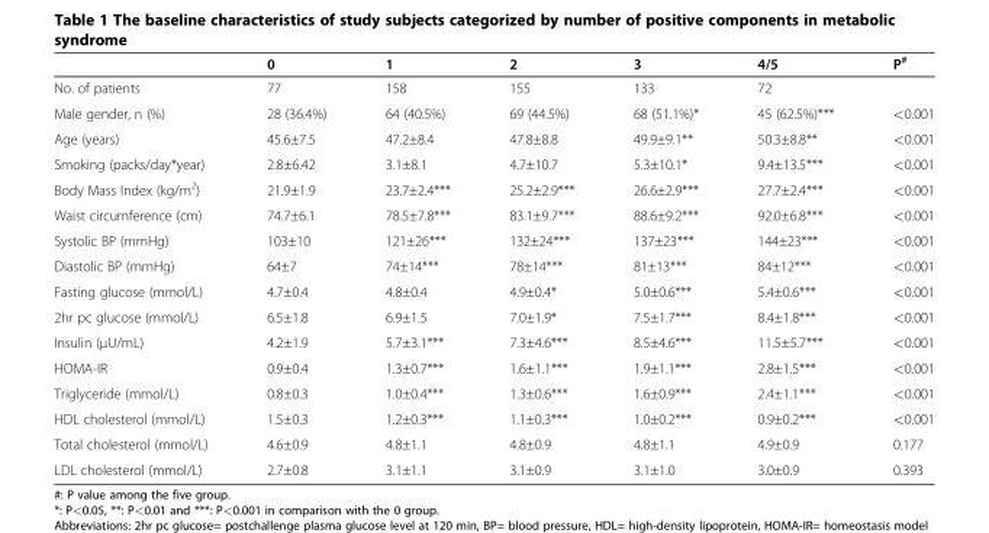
<table><thead><tr><td></td><td>0</td><td>1</td><td>2</td><td>3</td><td>4/5</td><td>P<sup>#</sup></td></tr></thead><tbody><tr><td>No. of patients</td><td>77</td><td>158</td><td>155</td><td>133</td><td>72</td><td></td></tr><tr><td>Male gender, n (%)</td><td>28 (36.4%)</td><td>64 (40.5%)</td><td>69 (44.5%)</td><td>68 (51.1%)*</td><td>45 (62.5%)***</td><td>&lt;0.001</td></tr><tr><td>Age (years)</td><td>45.6±7.5</td><td>47.2±8.4</td><td>47.8±8.8</td><td>49.9±9.1**</td><td>50.3±8.8**</td><td>&lt;0.001</td></tr><tr><td>Smoking (packs/day*year)</td><td>2.8±6.42</td><td>3.1±8.1</td><td>4.7±10.7</td><td>5.3±10.1*</td><td>9.4±13.5***</td><td>&lt;0.001</td></tr><tr><td>Body Mass Index (kg/m<sup>2</sup>)</td><td>21.9±1.9</td><td>23.7±2.4***</td><td>25.2±2.9***</td><td>26.6±2.9***</td><td>27.7±2.4***</td><td>&lt;0.001</td></tr><tr><td>Waist circumference (cm)</td><td>74.7±6.1</td><td>78.5±7.8***</td><td>83.1±9.7***</td><td>88.6±9.2***</td><td>92.0±6.8***</td><td>&lt;0.001</td></tr><tr><td>Systolic BP (mmHg)</td><td>103±10</td><td>121±26***</td><td>132±24***</td><td>137±23***</td><td>144±23***</td><td>&lt;0.001</td></tr><tr><td>Diastolic BP (mmHg)</td><td>64±7</td><td>74±14***</td><td>78±14***</td><td>81±13***</td><td>84±12***</td><td>&lt;0.001</td></tr><tr><td>Fasting glucose (mmol/L)</td><td>4.7±0.4</td><td>4.8±0.4</td><td>4.9±0.4*</td><td>5.0±0.6***</td><td>5.4±0.6***</td><td>&lt;0.001</td></tr><tr><td>2hr pc glucose (mmol/L)</td><td>6.5±1.8</td><td>6.9±1.5</td><td>7.0±1.9*</td><td>7.5±1.7***</td><td>8.4±1.8***</td><td>&lt;0.001</td></tr><tr><td>Insulin (μU/mL)</td><td>4.2±1.9</td><td>5.7±3.1***</td><td>7.3±4.6***</td><td>8.5±4.6***</td><td>11.5±5.7***</td><td>&lt;0.001</td></tr><tr><td>HOMA-IR</td><td>0.9±0.4</td><td>1.3±0.7***</td><td>1.6±1.1***</td><td>1.9±1.1***</td><td>2.8±1.5***</td><td>&lt;0.001</td></tr><tr><td>Triglyceride (mmol/L)</td><td>0.8±0.3</td><td>1.0±0.4***</td><td>1.3±0.6***</td><td>1.6±0.9***</td><td>2.4±1.1***</td><td>&lt;0.001</td></tr><tr><td>HDL cholesterol (mmol/L)</td><td>1.5±0.3</td><td>1.2±0.3***</td><td>1.1±0.3***</td><td>1.0±0.2***</td><td>0.9±0.2***</td><td>&lt;0.001</td></tr><tr><td>Total cholesterol (mmol/L)</td><td>4.6±0.9</td><td>4.8±1.1</td><td>4.8±0.9</td><td>4.8±1.1</td><td>4.9±0.9</td><td>0.177</td></tr><tr><td>LDL cholesterol (mmol/L)</td><td>2.7±0.8</td><td>3.1±1.1</td><td>3.1±0.9</td><td>3.1±1.0</td><td>3.0±0.9</td><td>0.393</td></tr></tbody></table>